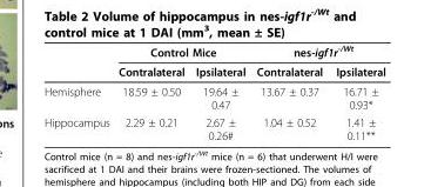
<table><thead><tr><td rowspan="2"></td><td colspan="2">Control Mice</td><td colspan="2">nes-igf1r<sup>-/Wt</sup></td></tr><tr><td>Contralateral</td><td>Ipsilateral</td><td>Contralateral</td><td>Ipsilateral</td></tr></thead><tbody><tr><td>Hemisphere</td><td>18.59 ± 0.50</td><td>19.64 ± 0.47</td><td>13.67 ± 0.37</td><td>16.71 ± 0.93*</td></tr><tr><td>Hippocampus</td><td>2.29 ± 0.21</td><td>2.67 ± 0.26#</td><td>1.04 ± 0.52</td><td>1.41 ± 0.11**</td></tr></tbody></table>